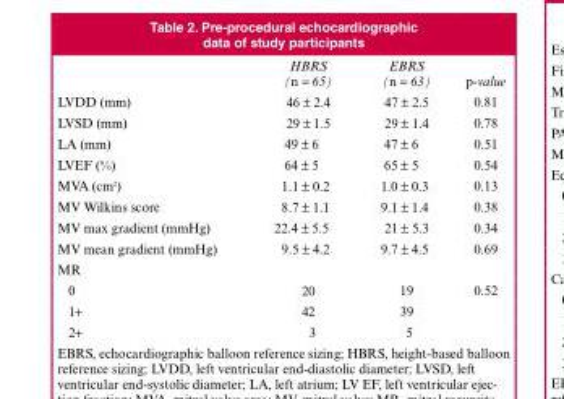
<table><thead><tr><td></td><td>HBRS (n = 65)</td><td>EBRS (n = 63)</td><td>p-value</td></tr></thead><tbody><tr><td>LVDD (mm)</td><td>46 ± 2.4</td><td>47 ± 2.5</td><td>0.81</td></tr><tr><td>LVSD (mm)</td><td>29 ± 1.5</td><td>29 ± 1.4</td><td>0.78</td></tr><tr><td>LA (mm)</td><td>49 ± 6</td><td>47 ± 6</td><td>0.51</td></tr><tr><td>LVEF (%)</td><td>64 ± 5</td><td>65 ± 5</td><td>0.54</td></tr><tr><td>MVA (cm<sup>2</sup>)</td><td>1.1 ± 0.2</td><td>1.0 ± 0.3</td><td>0.13</td></tr><tr><td>MV Wilkins score</td><td>8.7 ± 1.1</td><td>9.1 ± 1.4</td><td>0.38</td></tr><tr><td>MV max gradient (mmHg)</td><td>22.4 ± 5.5</td><td>21 ± 5.3</td><td>0.34</td></tr><tr><td>MV mean gradient (mmHg)</td><td>9.5 ± 4.2</td><td>9.7 ± 4.5</td><td>0.69</td></tr><tr><td colspan="4">MR</td></tr><tr><td>0</td><td>20</td><td>19</td><td>0.52</td></tr><tr><td>1+</td><td>42</td><td>39</td><td></td></tr><tr><td>2+</td><td>3</td><td>5</td><td></td></tr></tbody></table>